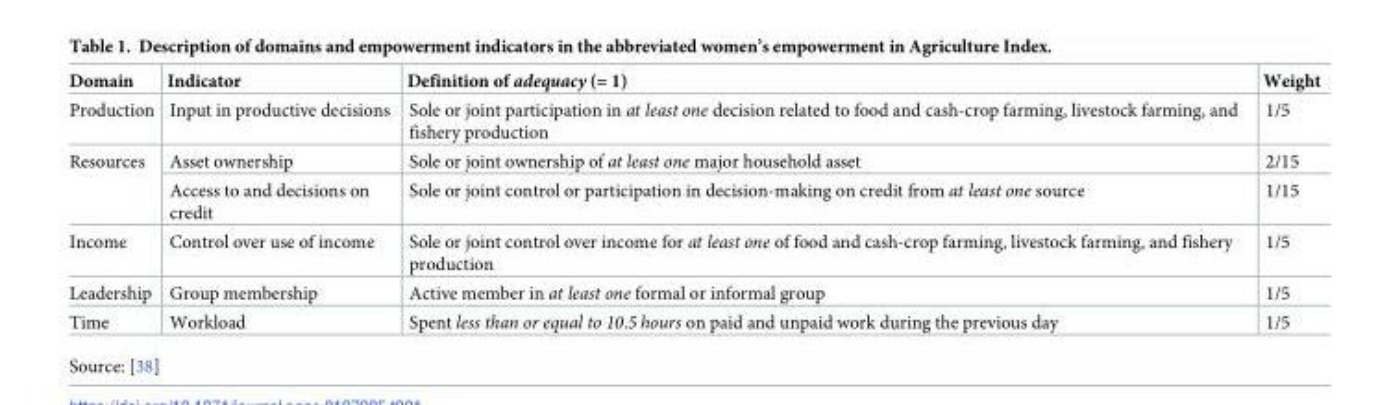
<table><thead><tr><td>Domain</td><td>Indicator</td><td>Definition of adequacy (= 1)</td><td>Weight</td></tr></thead><tbody><tr><td>Production</td><td>Input in productive decisions</td><td>Sole or joint participation in at least one decision related to food and cash-crop farming, livestock farming, and fishery production</td><td>1/5</td></tr><tr><td rowspan="2">Resources</td><td>Asset ownership</td><td>Sole or joint ownership of at least one major household asset</td><td>2/15</td></tr><tr><td>Access to and decisions on credit</td><td>Sole or joint control or participation in decision-making on credit from at least one source</td><td>1/15</td></tr><tr><td>Income</td><td>Control over use of income</td><td>Sole or joint control over income for at least one of food and cash-crop farming, livestock farming, and fishery production</td><td>1/5</td></tr><tr><td>Leadership</td><td>Group membership</td><td>Active member in at least one formal or informal group</td><td>1/5</td></tr><tr><td>Time</td><td>Workload</td><td>Spent less than or equal to 10.5 hours on paid and unpaid work during the previous day</td><td>1/5</td></tr></tbody></table>